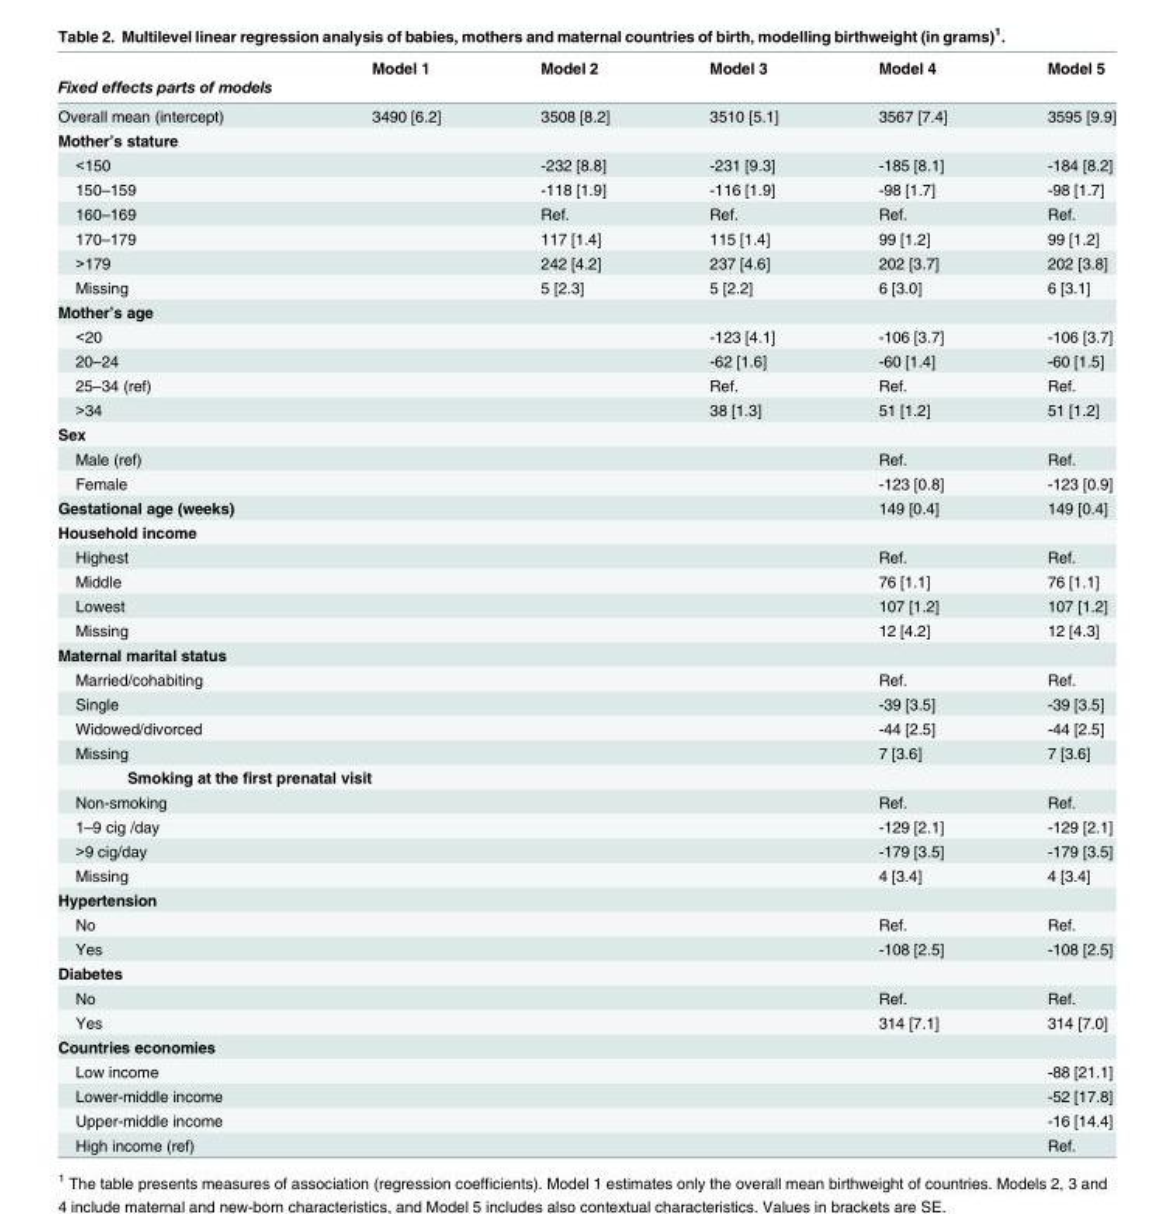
<table><thead><tr><td rowspan="2">Fixed effects parts of models</td><td rowspan="2">Model 1</td><td rowspan="2">Model 2</td><td rowspan="2">Model 3</td><td rowspan="2">Model 4</td><td rowspan="2">Model 5</td></tr><tr></tr></thead><tbody><tr><td>Overall mean (intercept)</td><td>3490 [6.2]</td><td>3508 [8.2]</td><td>3510 [5.1]</td><td>3567 [7.4]</td><td>3595 [9.9]</td></tr><tr><td colspan="6">Mother’s stature</td></tr><tr><td>&lt;150</td><td></td><td>-232 [8.8]</td><td>-231 [9.3]</td><td>-185 [8.1]</td><td>-184 [8.2]</td></tr><tr><td>150–159</td><td></td><td>-118 [1.9]</td><td>-116 [1.9]</td><td>-98 [1.7]</td><td>-98 [1.7]</td></tr><tr><td>160–169</td><td></td><td>Ref.</td><td>Ref.</td><td>Ref.</td><td>Ref.</td></tr><tr><td>170–179</td><td></td><td>117 [1.4]</td><td>115 [1.4]</td><td>99 [1.2]</td><td>99 [1.2]</td></tr><tr><td>&gt;179</td><td></td><td>242 [4.2]</td><td>237 [4.6]</td><td>202 [3.7]</td><td>202 [3.8]</td></tr><tr><td>Missing</td><td></td><td>5 [2.3]</td><td>5 [2.2]</td><td>6 [3.0]</td><td>6 [3.1]</td></tr><tr><td colspan="6">Mother’s age</td></tr><tr><td>&lt;20</td><td></td><td></td><td>-123 [4.1]</td><td>-106 [3.7]</td><td>-106 [3.7]</td></tr><tr><td>20–24</td><td></td><td></td><td>-62 [1.6]</td><td>-60 [1.4]</td><td>-60 [1.5]</td></tr><tr><td>25–34 (ref)</td><td></td><td></td><td>Ref.</td><td>Ref.</td><td>Ref.</td></tr><tr><td>&gt;34</td><td></td><td></td><td>38 [1.3]</td><td>51 [1.2]</td><td>51 [1.2]</td></tr><tr><td colspan="6">Sex</td></tr><tr><td>Male (ref)</td><td></td><td></td><td></td><td>Ref.</td><td>Ref.</td></tr><tr><td>Female</td><td></td><td></td><td></td><td>-123 [0.8]</td><td>-123 [0.9]</td></tr><tr><td>Gestational age (weeks)</td><td></td><td></td><td></td><td>149 [0.4]</td><td>149 [0.4]</td></tr><tr><td colspan="6">Household income</td></tr><tr><td>Highest</td><td></td><td></td><td></td><td>Ref.</td><td>Ref.</td></tr><tr><td>Middle</td><td></td><td></td><td></td><td>76 [1.1]</td><td>76 [1.1]</td></tr><tr><td>Lowest</td><td></td><td></td><td></td><td>107 [1.2]</td><td>107 [1.2]</td></tr><tr><td>Missing</td><td></td><td></td><td></td><td>12 [4.2]</td><td>12 [4.3]</td></tr><tr><td colspan="6">Maternal marital status</td></tr><tr><td>Married/cohabiting</td><td></td><td></td><td></td><td>Ref.</td><td>Ref.</td></tr><tr><td>Single</td><td></td><td></td><td></td><td>-39 [3.5]</td><td>-39 [3.5]</td></tr><tr><td>Widowed/divorced</td><td></td><td></td><td></td><td>-44 [2.5]</td><td>-44 [2.5]</td></tr><tr><td>Missing</td><td></td><td></td><td></td><td>7 [3.6]</td><td>7 [3.6]</td></tr><tr><td colspan="6">Smoking at the first prenatal visit</td></tr><tr><td>Non-smoking</td><td></td><td></td><td></td><td>Ref.</td><td>Ref.</td></tr><tr><td>1–9 cig /day</td><td></td><td></td><td></td><td>-129 [2.1]</td><td>-129 [2.1]</td></tr><tr><td>&gt;9 cig/day</td><td></td><td></td><td></td><td>-179 [3.5]</td><td>-179 [3.5]</td></tr><tr><td>Missing</td><td></td><td></td><td></td><td>4 [3.4]</td><td>4 [3.4]</td></tr><tr><td colspan="6">Hypertension</td></tr><tr><td>No</td><td></td><td></td><td></td><td>Ref.</td><td>Ref.</td></tr><tr><td>Yes</td><td></td><td></td><td></td><td>-108 [2.5]</td><td>-108 [2.5]</td></tr><tr><td colspan="6">Diabetes</td></tr><tr><td>No</td><td></td><td></td><td></td><td>Ref.</td><td>Ref.</td></tr><tr><td>Yes</td><td></td><td></td><td></td><td>314 [7.1]</td><td>314 [7.0]</td></tr><tr><td colspan="6">Countries economies</td></tr><tr><td>Low income</td><td></td><td></td><td></td><td></td><td>-88 [21.1]</td></tr><tr><td>Lower-middle income</td><td></td><td></td><td></td><td></td><td>-52 [17.8]</td></tr><tr><td>Upper-middle income</td><td></td><td></td><td></td><td></td><td>-16 [14.4]</td></tr><tr><td>High income (ref)</td><td></td><td></td><td></td><td></td><td>Ref.</td></tr></tbody></table>